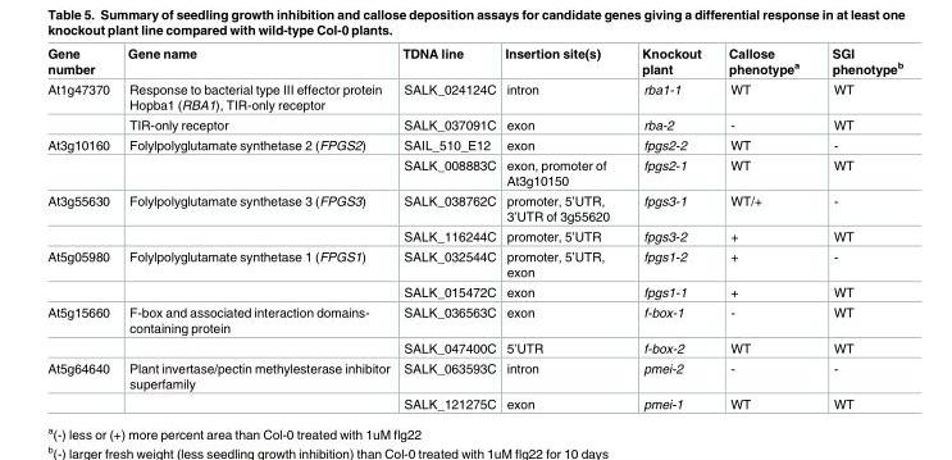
<table><thead><tr><td>Gene number</td><td>Gene name</td><td>TDNA line</td><td>Insertion site(s)</td><td>Knockout plant</td><td>Callose phenotype<sup>a</sup></td><td>SGI phenotype<sup>b</sup></td></tr></thead><tbody><tr><td rowspan="2">At1g47370</td><td>Response to bacterial type III effector protein Hopba1 (RBA1), TIR-only receptor</td><td>SALK_024124C</td><td>intron</td><td>rba1-1</td><td>WT</td><td>WT</td></tr><tr><td>TIR-only receptor</td><td>SALK_037091C</td><td>exon</td><td>rba-2</td><td>-</td><td>WT</td></tr><tr><td rowspan="2">At3g10160</td><td>Folylpolyglutamate synthetase 2 (FPGS2)</td><td>SAIL_510_E12</td><td>exon</td><td>fpgs2-2</td><td>WT</td><td>-</td></tr><tr><td></td><td>SALK_008883C</td><td>exon, promoter of At3g10150</td><td>fpgs2-1</td><td>WT</td><td>WT</td></tr><tr><td rowspan="2">At3g55630</td><td>Folylpolyglutamate synthetase 3 (FPGS3)</td><td>SALK_038762C</td><td>promoter, 5’UTR, 3’UTR of 3g55620</td><td>fpgs3-1</td><td>WT/+</td><td>-</td></tr><tr><td></td><td>SALK_116244C</td><td>promoter, 5’UTR</td><td>fpgs3-2</td><td>+</td><td>WT</td></tr><tr><td rowspan="2">At5g05980</td><td>Folylpolyglutamate synthetase 1 (FPGS1)</td><td>SALK_032544C</td><td>promoter, 5’UTR, exon</td><td>fpgs1-2</td><td>+</td><td>-</td></tr><tr><td></td><td>SALK_015472C</td><td>exon</td><td>fpgs1-1</td><td>+</td><td>WT</td></tr><tr><td rowspan="2">At5g15660</td><td>F-box and associated interaction domains- containing protein</td><td>SALK_036563C</td><td>exon</td><td>f-box-1</td><td>-</td><td>WT</td></tr><tr><td></td><td>SALK_047400C</td><td>5’UTR</td><td>f-box-2</td><td>WT</td><td>WT</td></tr><tr><td rowspan="2">At5g64640</td><td>Plant invertase/pectin methylesterase inhibitor superfamily</td><td>SALK_063593C</td><td>intron</td><td>pmei-2</td><td>-</td><td>-</td></tr><tr><td></td><td>SALK_121275C</td><td>exon</td><td>pmei-1</td><td>WT</td><td>WT</td></tr></tbody></table>